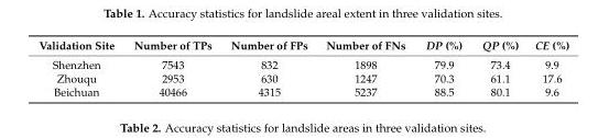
<table><thead><tr><td>Validation Site</td><td>Number of TPs</td><td>Number of FPs</td><td>Number of FNs</td><td>DP (%)</td><td>QP (%)</td><td>CE (%)</td></tr></thead><tbody><tr><td>Shenzhen</td><td>7543</td><td>832</td><td>1898</td><td>79.9</td><td>73.4</td><td>9.9</td></tr><tr><td>Zhouqu</td><td>2953</td><td>630</td><td>1247</td><td>70.3</td><td>61.1</td><td>17.6</td></tr><tr><td>Beichuan</td><td>40466</td><td>4315</td><td>5237</td><td>88.5</td><td>80.1</td><td>9.6</td></tr></tbody></table>